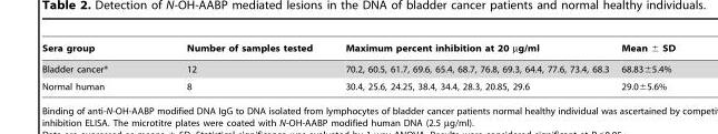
<table><thead><tr><td>Sera group</td><td>Number of samples tested</td><td>Maximum percent inhibition at 20 µg/ml</td><td>Mean ± SD</td></tr></thead><tbody><tr><td>Bladder cancer*</td><td>12</td><td>70.2, 60.5, 61.7, 69.6, 65.4, 68.7, 76.8, 69.3, 64.4, 77.6, 73.4, 68.3</td><td>68.83±5.4%</td></tr><tr><td>Normal human</td><td>8</td><td>30.4, 25.6, 24.25, 38.4, 34.4, 28.3, 20.85, 29.6</td><td>29.0±5.6%</td></tr></tbody></table>